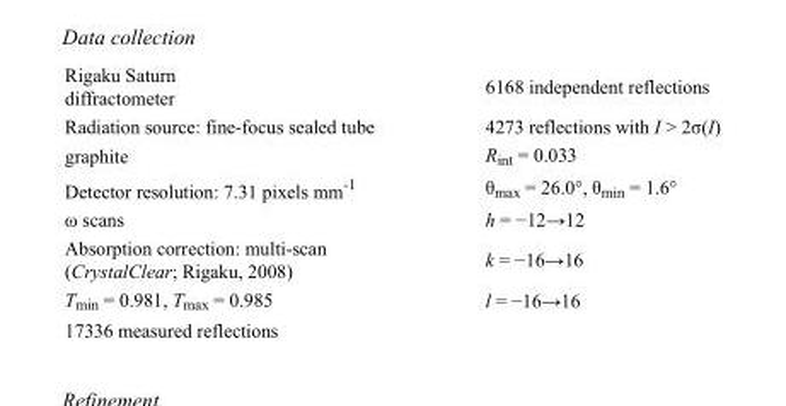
<table><tbody><tr><td>Rigaku Saturn diffractometer</td><td>6168 independent reflections</td></tr><tr><td>Radiation source: fine-focus sealed tube</td><td>4273 reflections with I &gt; 2σ(I)</td></tr><tr><td>graphite</td><td>R<sub>int</sub> = 0.033</td></tr><tr><td>Detector resolution: 7.31 pixels mm<sup>-1</sup></td><td>θ<sub>max</sub> = 26.0°, θ<sub>min</sub> = 1.6°</td></tr><tr><td>ω scans</td><td>h = −12→12</td></tr><tr><td>Absorption correction: multi-scan (CrystalClear; Rigaku, 2008)</td><td>k = −16→16</td></tr><tr><td>T<sub>min</sub> = 0.981, T<sub>max</sub> = 0.985</td><td>l = −16→16</td></tr><tr><td>17336 measured reflections</td><td></td></tr></tbody></table>